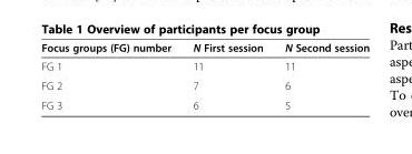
<table><thead><tr><td>Focus groups (FG) number</td><td>N First session</td><td>N Second session</td></tr></thead><tbody><tr><td>FG 1</td><td>11</td><td>11</td></tr><tr><td>FG 2</td><td>7</td><td>6</td></tr><tr><td>FG 3</td><td>6</td><td>5</td></tr></tbody></table>